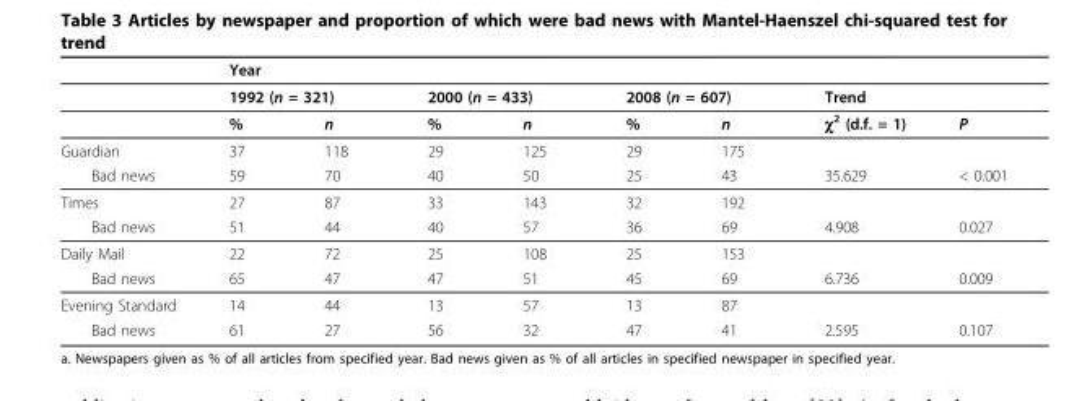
<table><thead><tr><td rowspan="3"></td><td colspan="6">Year</td><td></td><td></td></tr><tr><td colspan="2">1992 (n = 321)</td><td colspan="2">2000 (n = 433)</td><td colspan="2">2008 (n = 607)</td><td colspan="2">Trend</td></tr><tr><td>%</td><td>n</td><td>%</td><td>n</td><td>%</td><td>n</td><td>χ2 (d.f. = 1)</td><td>P</td></tr></thead><tbody><tr><td>Guardian</td><td>37</td><td>118</td><td>29</td><td>125</td><td>29</td><td>175</td><td></td><td></td></tr><tr><td>Bad news</td><td>59</td><td>70</td><td>40</td><td>50</td><td>25</td><td>43</td><td>35.629</td><td>&lt; 0.001</td></tr><tr><td>Times</td><td>27</td><td>87</td><td>33</td><td>143</td><td>32</td><td>192</td><td></td><td></td></tr><tr><td>Bad news</td><td>51</td><td>44</td><td>40</td><td>57</td><td>36</td><td>69</td><td>4.908</td><td>0.027</td></tr><tr><td>Daily Mail</td><td>22</td><td>72</td><td>25</td><td>108</td><td>25</td><td>153</td><td></td><td></td></tr><tr><td>Bad news</td><td>65</td><td>47</td><td>47</td><td>51</td><td>45</td><td>69</td><td>6.736</td><td>0.009</td></tr><tr><td>Evening Standard</td><td>14</td><td>44</td><td>13</td><td>57</td><td>13</td><td>87</td><td></td><td></td></tr><tr><td>Bad news</td><td>61</td><td>27</td><td>56</td><td>32</td><td>47</td><td>41</td><td>2.595</td><td>0.107</td></tr></tbody></table>